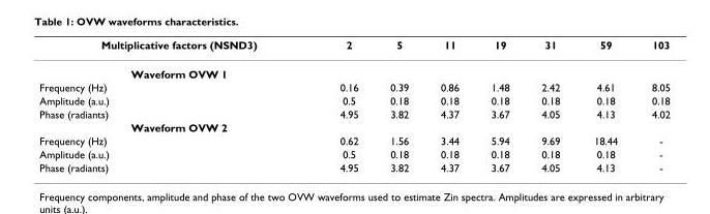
<table><thead><tr><td>Multiplicative factors (NSND3)</td><td>2</td><td>5</td><td>11</td><td>19</td><td>31</td><td>59</td><td>103</td></tr></thead><tbody><tr><td colspan="8">Waveform OVW 1</td></tr><tr><td>Frequency (Hz)</td><td>0.16</td><td>0.39</td><td>0.86</td><td>1.48</td><td>2.42</td><td>4.61</td><td>8.05</td></tr><tr><td>Amplitude (a.u.)</td><td>0.5</td><td>0.18</td><td>0.18</td><td>0.18</td><td>0.18</td><td>0.18</td><td>0.18</td></tr><tr><td>Phase (radiants)</td><td>4.95</td><td>3.82</td><td>4.37</td><td>3.67</td><td>4.05</td><td>4.13</td><td>4.02</td></tr><tr><td colspan="8">Waveform OVW 2</td></tr><tr><td>Frequency (Hz)</td><td>0.62</td><td>1.56</td><td>3.44</td><td>5.94</td><td>9.69</td><td>18.44</td><td>-</td></tr><tr><td>Amplitude (a.u.)</td><td>0.5</td><td>0.18</td><td>0.18</td><td>0.18</td><td>0.18</td><td>0.18</td><td>-</td></tr><tr><td>Phase (radiants)</td><td>4.95</td><td>3.82</td><td>4.37</td><td>3.67</td><td>4.05</td><td>4.13</td><td>-</td></tr></tbody></table>